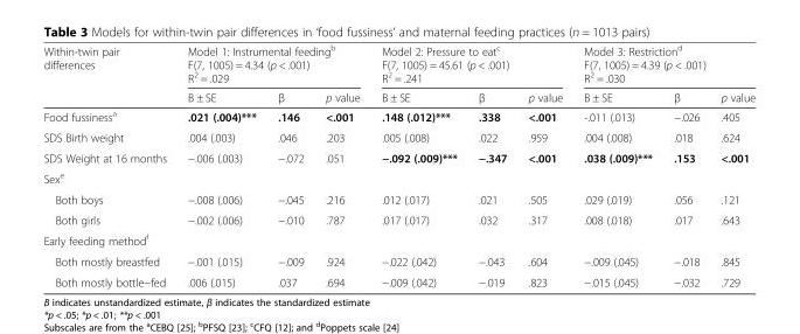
<table><thead><tr><td rowspan="2">Within-twin pair differences</td><td colspan="3">Model 1: Instrumental feeding<sup>b</sup> F(7, 1005) = 4.34 (p &lt; .001) R<sup>2</sup> = .029</td><td colspan="3">Model 2: Pressure to eat<sup>c</sup> F(7, 1005) = 45.61 (p &lt; .001) R<sup>2</sup> = .241</td><td colspan="3">Model 3: Restriction<sup>d</sup> F(7, 1005) = 4.39 (p &lt; .001) R<sup>2</sup> = .030</td></tr><tr><td>B ± SE</td><td>β</td><td>p value</td><td>B ± SE</td><td>β</td><td>p value</td><td>B ± SE</td><td>β</td><td>p value</td></tr></thead><tbody><tr><td>Food fussiness<sup>a</sup></td><td>.021 (.004)***</td><td>.146</td><td>&lt;.001</td><td>.148 (.012)***</td><td>.338</td><td>&lt;.001</td><td>-.011 (.013)</td><td>−.026</td><td>.405</td></tr><tr><td>SDS Birth weight</td><td>.004 (.003)</td><td>.046</td><td>.203</td><td>.005 (.008)</td><td>.022</td><td>.959</td><td>.004 (.008)</td><td>.018</td><td>.624</td></tr><tr><td>SDS Weight at 16 months</td><td>−.006 (.003)</td><td>−.072</td><td>.051</td><td>−.092 (.009)***</td><td>−.347</td><td>&lt;.001</td><td>.038 (.009)***</td><td>.153</td><td>&lt;.001</td></tr><tr><td colspan="10">Sex<sup>e</sup></td></tr><tr><td>Both boys</td><td>−.008 (.006)</td><td>−.045</td><td>.216</td><td>.012 (.017)</td><td>.021</td><td>.505</td><td>.029 (.019)</td><td>.056</td><td>.121</td></tr><tr><td>Both girls</td><td>−.002 (.006)</td><td>−.010</td><td>.787</td><td>.017 (.017)</td><td>.032</td><td>.317</td><td>.008 (.018)</td><td>.017</td><td>.643</td></tr><tr><td colspan="10">Early feeding method<sup>f</sup></td></tr><tr><td>Both mostly breastfed</td><td>−.001 (.015)</td><td>−.009</td><td>.924</td><td>−.022 (.042)</td><td>−.043</td><td>.604</td><td>−.009 (.045)</td><td>−.018</td><td>.845</td></tr><tr><td>Both mostly bottle−fed</td><td>.006 (.015)</td><td>.037</td><td>.694</td><td>−.009 (.042)</td><td>−.019</td><td>.823</td><td>−.015 (.045)</td><td>−.032</td><td>.729</td></tr></tbody></table>